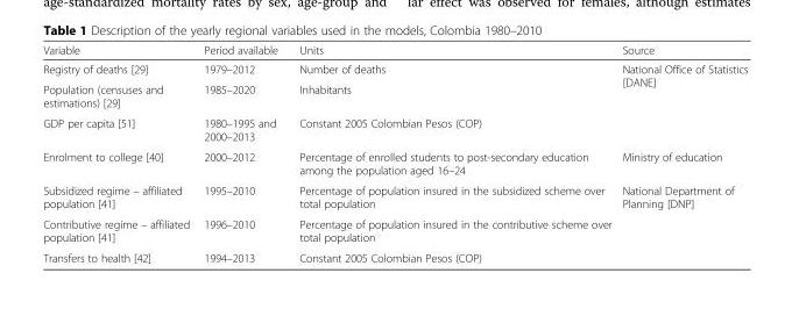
<table><thead><tr><td>Variable</td><td>Period available</td><td>Units</td><td>Source</td></tr></thead><tbody><tr><td>Registry of deaths [29]</td><td>1979–2012</td><td>Number of deaths</td><td rowspan="3">National Office of Statistics [DANE]</td></tr><tr><td>Population (censuses and estimations) [29]</td><td>1985–2020</td><td>Inhabitants</td></tr><tr><td>GDP per capita [51]</td><td>1980–1995 and 2000–2013</td><td>Constant 2005 Colombian Pesos (COP)</td></tr><tr><td>Enrolment to college [40]</td><td>2000–2012</td><td>Percentage of enrolled students to post-secondary education among the population aged 16–24</td><td>Ministry of education</td></tr><tr><td>Subsidized regime – affiliated population [41]</td><td>1995–2010</td><td>Percentage of population insured in the subsidized scheme over total population</td><td rowspan="3">National Department of Planning [DNP]</td></tr><tr><td>Contributive regime – affiliated population [41]</td><td>1996–2010</td><td>Percentage of population insured in the contributive scheme over total population</td></tr><tr><td>Transfers to health [42]</td><td>1994–2013</td><td>Constant 2005 Colombian Pesos (COP)</td></tr></tbody></table>